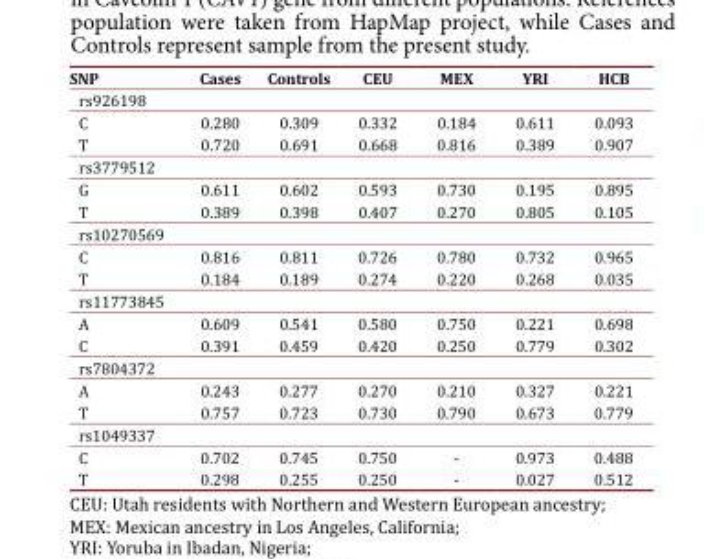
<table><thead><tr><td>SNP</td><td>Cases</td><td>Controls</td><td>CEU</td><td>MEX</td><td>YRI</td><td>HCB</td></tr></thead><tbody><tr><td colspan="7">rs926198</td></tr><tr><td>C</td><td>0.280</td><td>0.309</td><td>0.332</td><td>0.184</td><td>0.611</td><td>0.093</td></tr><tr><td>T</td><td>0.720</td><td>0.691</td><td>0.668</td><td>0.816</td><td>0.389</td><td>0.907</td></tr><tr><td colspan="7">rs3779512</td></tr><tr><td>G</td><td>0.611</td><td>0.602</td><td>0.593</td><td>0.730</td><td>0.195</td><td>0.895</td></tr><tr><td>T</td><td>0.389</td><td>0.398</td><td>0.407</td><td>0.270</td><td>0.805</td><td>0.105</td></tr><tr><td colspan="7">rs10270569</td></tr><tr><td>C</td><td>0.816</td><td>0.811</td><td>0.726</td><td>0.780</td><td>0.732</td><td>0.965</td></tr><tr><td>T</td><td>0.184</td><td>0.189</td><td>0.274</td><td>0.220</td><td>0.268</td><td>0.035</td></tr><tr><td colspan="7">rs11773845</td></tr><tr><td>A</td><td>0.609</td><td>0.541</td><td>0.580</td><td>0.750</td><td>0.221</td><td>0.698</td></tr><tr><td>C</td><td>0.391</td><td>0.459</td><td>0.420</td><td>0.250</td><td>0.779</td><td>0.302</td></tr><tr><td colspan="7">rs7804372</td></tr><tr><td>A</td><td>0.243</td><td>0.277</td><td>0.270</td><td>0.210</td><td>0.327</td><td>0.221</td></tr><tr><td>T</td><td>0.757</td><td>0.723</td><td>0.730</td><td>0.790</td><td>0.673</td><td>0.779</td></tr><tr><td colspan="7">rs1049337</td></tr><tr><td>C</td><td>0.702</td><td>0.745</td><td>0.750</td><td>-</td><td>0.973</td><td>0.488</td></tr><tr><td>T</td><td>0.298</td><td>0.255</td><td>0.250</td><td>-</td><td>0.027</td><td>0.512</td></tr></tbody></table>